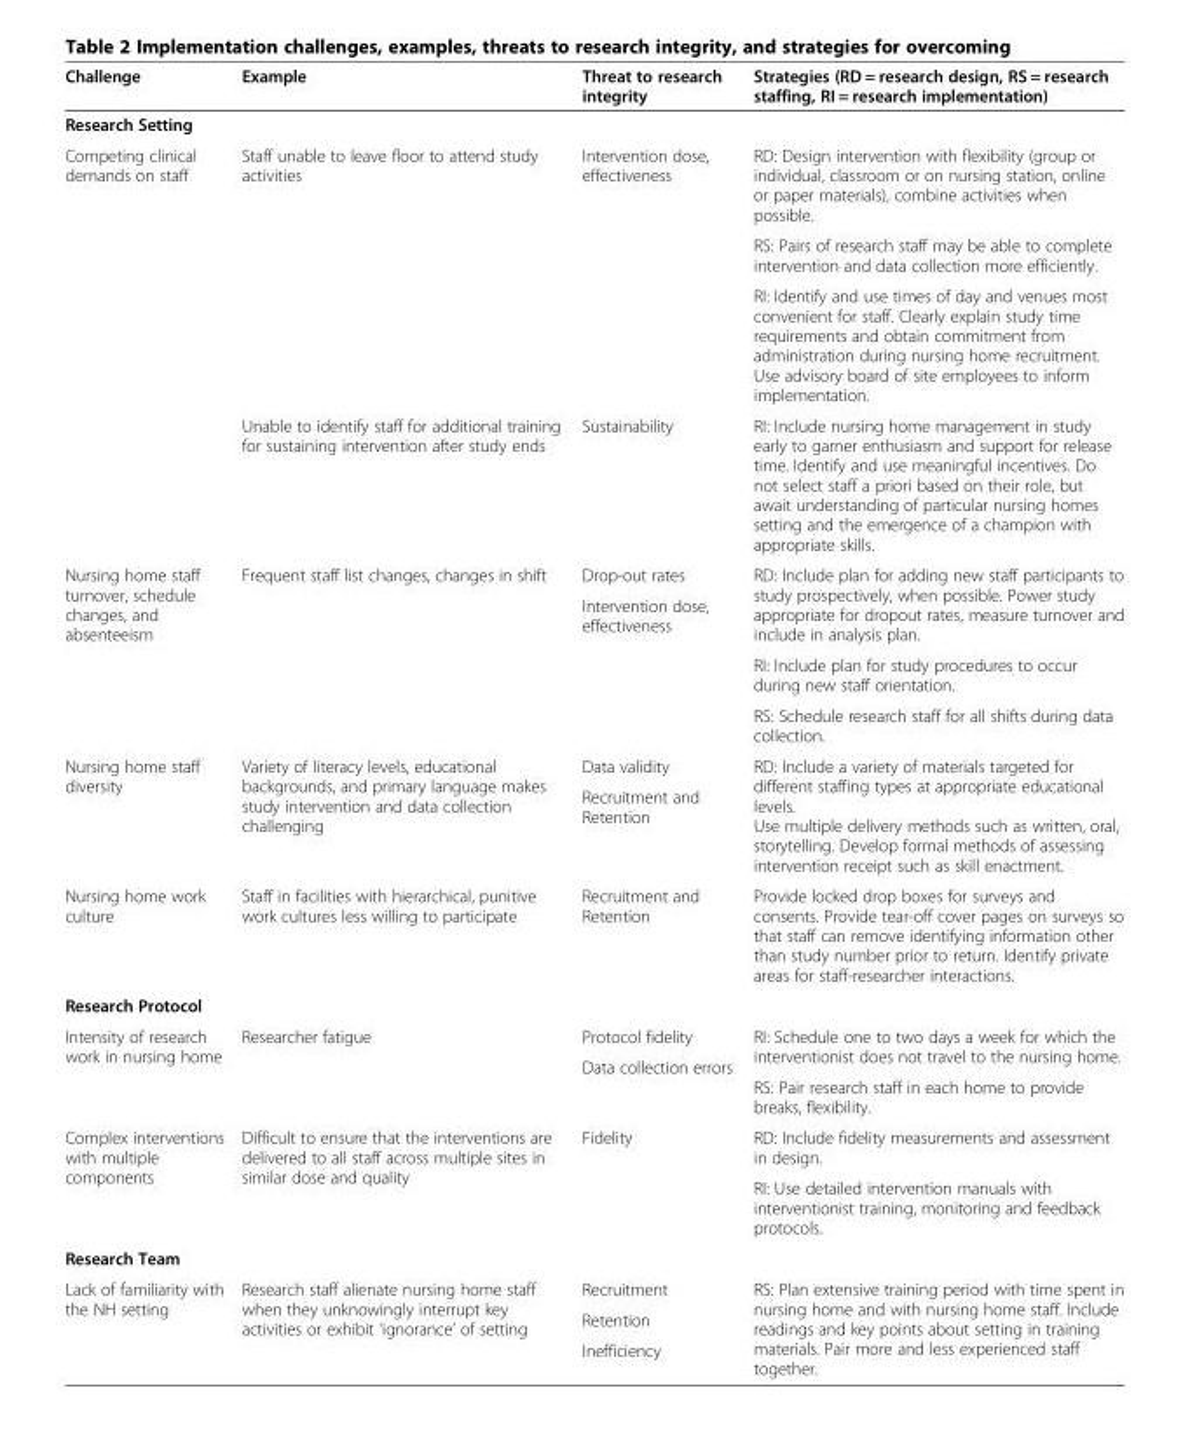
<table><thead><tr><td>Challenge</td><td>Example</td><td>Threat to research integrity</td><td>Strategies (RD = research design, RS = research staffing, RI = research implementation)</td></tr></thead><tbody><tr><td colspan="4">Research Setting</td></tr><tr><td rowspan="4">Competing clinical demands on staff</td><td rowspan="3">Staff unable to leave floor to attend study activities</td><td rowspan="3">Intervention dose, effectiveness</td><td>RD: Design intervention with flexibility (group or individual, classroom or on nursing station, online or paper materials), combine activities when possible.</td></tr><tr><td>RS: Pairs of research staff may be able to complete intervention and data collection more efficiently.</td></tr><tr><td>RI: Identify and use times of day and venues most convenient for staff. Clearly explain study time requirements and obtain commitment from administration during nursing home recruitment. Use advisory board of site employees to inform implementation.</td></tr><tr><td>Unable to identify staff for additional training for sustaining intervention after study ends</td><td>Sustainability</td><td>RI: Include nursing home management in study early to garner enthusiasm and support for release time. Identify and use meaningful incentives. Do not select staff a priori based on their role, but await understanding of particular nursing homes setting and the emergence of a champion with appropriate skills.</td></tr><tr><td rowspan="4">Nursing home staff turnover, schedule changes, and absenteeism</td><td rowspan="4">Frequent staff list changes, changes in shift</td><td>Drop-out rates</td><td rowspan="2">RD: Include plan for adding new staff participants to study prospectively, when possible. Power study appropriate for dropout rates, measure turnover and include in analysis plan.</td></tr><tr><td rowspan="3">Intervention dose, effectiveness</td></tr><tr><td>RI: Include plan for study procedures to occur during new staff orientation.</td></tr><tr><td>RS: Schedule research staff for all shifts during data collection.</td></tr><tr><td rowspan="2">Nursing home staff diversity</td><td rowspan="2">Variety of literacy levels, educational backgrounds, and primary language makes study intervention and data collection challenging</td><td>Data validity</td><td rowspan="2">RD: Include a variety of materials targeted for different staffing types at appropriate educational levels. Use multiple delivery methods such as written, oral, storytelling. Develop formal methods of assessing intervention receipt such as skill enactment.</td></tr><tr><td>Recruitment and Retention</td></tr><tr><td>Nursing home work culture</td><td>Staff in facilities with hierarchical, punitive work cultures less willing to participate</td><td>Recruitment and Retention</td><td>Provide locked drop boxes for surveys and consents. Provide tear-off cover pages on surveys so that staff can remove identifying information other than study number prior to return. Identify private areas for staff-researcher interactions.</td></tr><tr><td colspan="4">Research Protocol</td></tr><tr><td rowspan="3">Intensity of research work in nursing home</td><td rowspan="3">Researcher fatigue</td><td>Protocol fidelity</td><td rowspan="2">RI: Schedule one to two days a week for which the interventionist does not travel to the nursing home.</td></tr><tr><td rowspan="2">Data collection errors</td></tr><tr><td>RS: Pair research staff in each home to provide breaks, flexibility.</td></tr><tr><td rowspan="2">Complex interventions with multiple components</td><td rowspan="2">Difficult to ensure that the interventions are delivered to all staff across multiple sites in similar dose and quality</td><td rowspan="2">Fidelity</td><td>RD: Include fidelity measurements and assessment in design.</td></tr><tr><td>RI: Use detailed intervention manuals with interventionist training, monitoring and feedback protocols.</td></tr><tr><td colspan="4">Research Team</td></tr><tr><td rowspan="3">Lack of familiarity with the NH setting</td><td rowspan="3">Research staff alienate nursing home staff when they unknowingly interrupt key activities or exhibit ‘ignorance’ of setting</td><td>Recruitment</td><td rowspan="3">RS: Plan extensive training period with time spent in nursing home and with nursing home staff. Include readings and key points about setting in training materials. Pair more and less experienced staff together.</td></tr><tr><td>Retention</td></tr><tr><td>Inefficiency</td></tr></tbody></table>